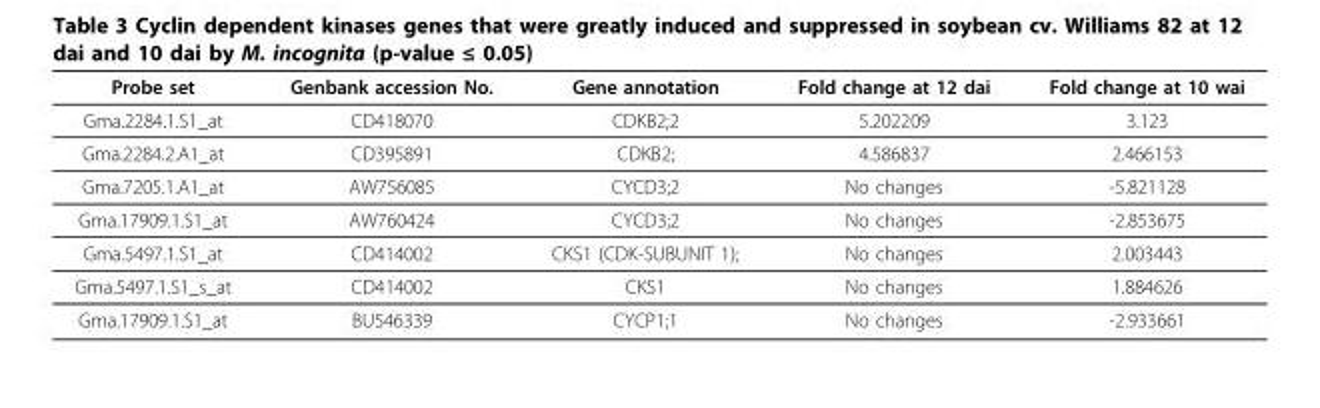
<table><thead><tr><td>Probe set</td><td>Genbank accession No.</td><td>Gene annotation</td><td>Fold change at 12 dai</td><td>Fold change at 10 wai</td></tr></thead><tbody><tr><td>Gma.2284.1.S1_at</td><td>CD418070</td><td>CDKB2;2</td><td>5.202209</td><td>3.123</td></tr><tr><td>Gma.2284.2.A1_at</td><td>CD395891</td><td>CDKB2;</td><td>4.586837</td><td>2.466153</td></tr><tr><td>Gma.7205.1.A1_at</td><td>AW756085</td><td>CYCD3;2</td><td>No changes</td><td>-5.821128</td></tr><tr><td>Gma.17909.1.S1_at</td><td>AW760424</td><td>CYCD3;2</td><td>No changes</td><td>-2.853675</td></tr><tr><td>Gma.5497.1.S1_at</td><td>CD414002</td><td>CKS1 (CDK-SUBUNIT 1);</td><td>No changes</td><td>2.003443</td></tr><tr><td>Gma.5497.1.S1_s_at</td><td>CD414002</td><td>CKS1</td><td>No changes</td><td>1.884626</td></tr><tr><td>Gma.17909.1.S1_at</td><td>BU546339</td><td>CYCP1;1</td><td>No changes</td><td>-2.933661</td></tr></tbody></table>